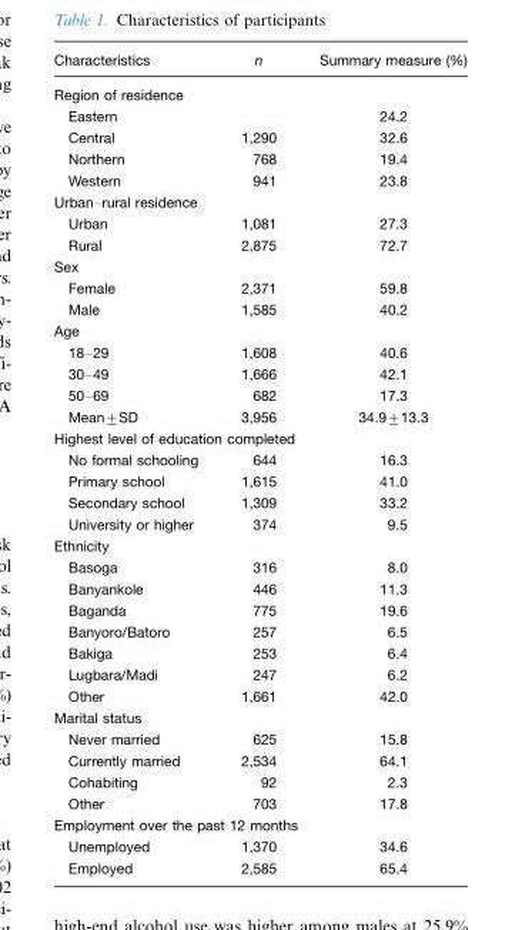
<table><thead><tr><td>Characteristics</td><td>n</td><td>Summary measure (%)</td></tr></thead><tbody><tr><td colspan="3">Region of residence</td></tr><tr><td>Eastern</td><td></td><td>24.2</td></tr><tr><td>Central</td><td>1,290</td><td>32.6</td></tr><tr><td>Northern</td><td>768</td><td>19.4</td></tr><tr><td>Western</td><td>941</td><td>23.8</td></tr><tr><td colspan="3">Urban–rural residence</td></tr><tr><td>Urban</td><td>1,081</td><td>27.3</td></tr><tr><td>Rural</td><td>2,875</td><td>72.7</td></tr><tr><td colspan="3">Sex</td></tr><tr><td>Female</td><td>2,371</td><td>59.8</td></tr><tr><td>Male</td><td>1,585</td><td>40.2</td></tr><tr><td colspan="3">Age</td></tr><tr><td>18–29</td><td>1,608</td><td>40.6</td></tr><tr><td>30–49</td><td>1,666</td><td>42.1</td></tr><tr><td>50–69</td><td>682</td><td>17.3</td></tr><tr><td>Mean±SD</td><td>3,956</td><td>34.9±13.3</td></tr><tr><td colspan="3">Highest level of education completed</td></tr><tr><td>No formal schooling</td><td>644</td><td>16.3</td></tr><tr><td>Primary school</td><td>1,615</td><td>41.0</td></tr><tr><td>Secondary school</td><td>1,309</td><td>33.2</td></tr><tr><td>University or higher</td><td>374</td><td>9.5</td></tr><tr><td colspan="3">Ethnicity</td></tr><tr><td>Basoga</td><td>316</td><td>8.0</td></tr><tr><td>Banyankole</td><td>446</td><td>11.3</td></tr><tr><td>Baganda</td><td>775</td><td>19.6</td></tr><tr><td>Banyoro/Batoro</td><td>257</td><td>6.5</td></tr><tr><td>Bakiga</td><td>253</td><td>6.4</td></tr><tr><td>Lugbara/Madi</td><td>247</td><td>6.2</td></tr><tr><td>Other</td><td>1,661</td><td>42.0</td></tr><tr><td colspan="3">Marital status</td></tr><tr><td>Never married</td><td>625</td><td>15.8</td></tr><tr><td>Currently married</td><td>2,534</td><td>64.1</td></tr><tr><td>Cohabiting</td><td>92</td><td>2.3</td></tr><tr><td>Other</td><td>703</td><td>17.8</td></tr><tr><td colspan="3">Employment over the past 12 months</td></tr><tr><td>Unemployed</td><td>1,370</td><td>34.6</td></tr><tr><td>Employed</td><td>2,585</td><td>65.4</td></tr></tbody></table>